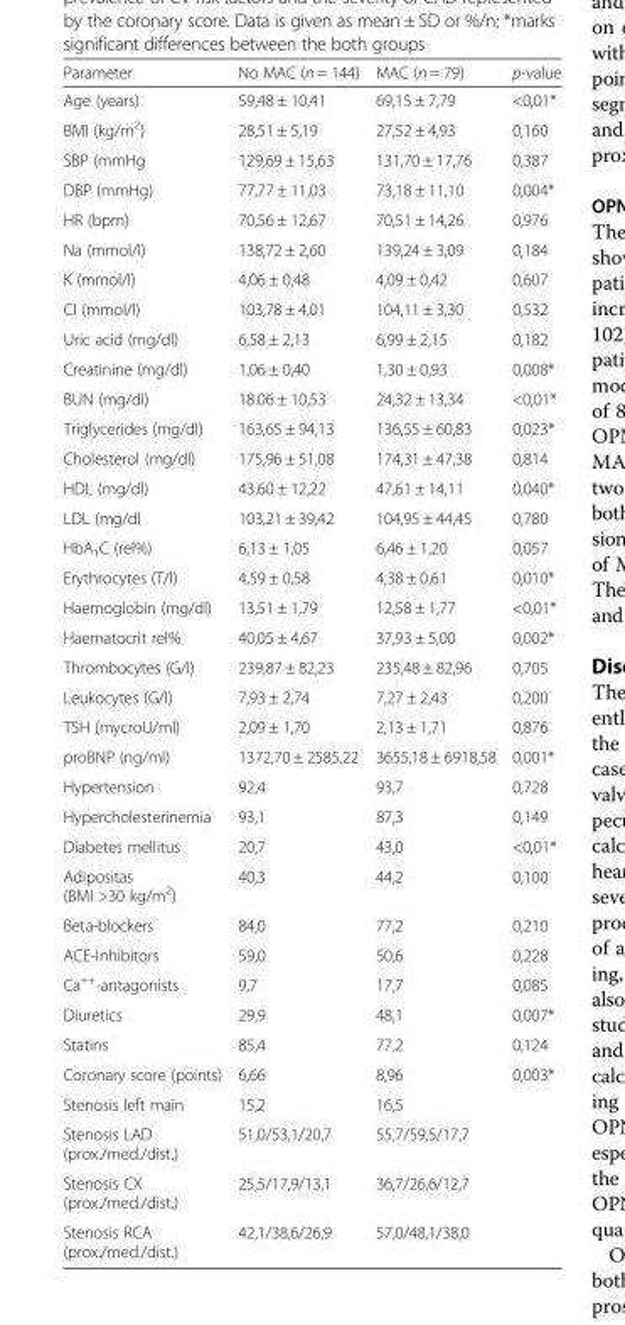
<table><thead><tr><td>Parameter</td><td>No MAC (n = 144)</td><td>MAC (n = 79)</td><td>p-value</td></tr></thead><tbody><tr><td>Age (years)</td><td>59,48 ± 10,41</td><td>69,15 ± 7,79</td><td>&lt;0,01*</td></tr><tr><td>BMI (kg/m<sup>2</sup>)</td><td>28,51 ± 5,19</td><td>27,52 ± 4,93</td><td>0,160</td></tr><tr><td>SBP (mmHg</td><td>129,69 ± 15,63</td><td>131,70 ± 17,76</td><td>0,387</td></tr><tr><td>DBP (mmHg)</td><td>77,77 ± 11,03</td><td>73,18 ± 11,10</td><td>0,004*</td></tr><tr><td>HR (bpm)</td><td>70,56 ± 12,67</td><td>70,51 ± 14,26</td><td>0,976</td></tr><tr><td>Na (mmol/l)</td><td>138,72 ± 2,60</td><td>139,24 ± 3,09</td><td>0,184</td></tr><tr><td>K (mmol/l)</td><td>4,06 ± 0,48</td><td>4,09 ± 0,42</td><td>0,607</td></tr><tr><td>Cl (mmol/l)</td><td>103,78 ± 4,01</td><td>104,11 ± 3,30</td><td>0,532</td></tr><tr><td>Uric acid (mg/dl)</td><td>6,58 ± 2,13</td><td>6,99 ± 2,15</td><td>0,182</td></tr><tr><td>Creatinine (mg/dl)</td><td>1,06 ± 0,40</td><td>1,30 ± 0,93</td><td>0,008*</td></tr><tr><td>BUN (mg/dl)</td><td>18.06 ± 10,53</td><td>24,32 ± 13,34</td><td>&lt;0,01*</td></tr><tr><td>Triglycerides (mg/dl)</td><td>163,65 ± 94,13</td><td>136,55 ± 60,83</td><td>0,023*</td></tr><tr><td>Cholesterol (mg/dl)</td><td>175,96 ± 51,08</td><td>174,31 ± 47,38</td><td>0,814</td></tr><tr><td>HDL (mg/dl)</td><td>43,60 ± 12,22</td><td>47,61 ± 14,11</td><td>0,040*</td></tr><tr><td>LDL (mg/dl</td><td>103,21 ± 39,42</td><td>104,95 ± 44,45</td><td>0,780</td></tr><tr><td>HbA<sub>1</sub>C (rel%)</td><td>6,13 ± 1,05</td><td>6,46 ± 1,20</td><td>0,057</td></tr><tr><td>Erythrocytes (T/l)</td><td>4,59 ± 0,58</td><td>4,38 ± 0,61</td><td>0,010*</td></tr><tr><td>Haemoglobin (mg/dl)</td><td>13,51 ± 1,79</td><td>12,58 ± 1,77</td><td>&lt;0,01*</td></tr><tr><td>Haematocrit rel%</td><td>40,05 ± 4,67</td><td>37,93 ± 5,00</td><td>0,002*</td></tr><tr><td>Thrombocytes (G/l)</td><td>239,87 ± 82,23</td><td>235,48 ± 82,96</td><td>0,705</td></tr><tr><td>Leukocytes (G/l)</td><td>7,93 ± 2,74</td><td>7,27 ± 2,43</td><td>0,200</td></tr><tr><td>TSH (mycroU/ml)</td><td>2,09 ± 1,70</td><td>2,13 ± 1,71</td><td>0,876</td></tr><tr><td>proBNP (ng/ml)</td><td>1372,70 ± 2585,22</td><td>3655,18 ± 6918,58</td><td>0,001*</td></tr><tr><td>Hypertension</td><td>92,4</td><td>93,7</td><td>0,728</td></tr><tr><td>Hypercholesterinemia</td><td>93,1</td><td>87,3</td><td>0,149</td></tr><tr><td>Diabetes mellitus</td><td>20,7</td><td>43,0</td><td>&lt;0,01*</td></tr><tr><td>Adipositas (BMI &gt;30 kg/m<sup>2</sup>)</td><td>40,3</td><td>44,2</td><td>0,100</td></tr><tr><td>Beta-blockers</td><td>84,0</td><td>77,2</td><td>0,210</td></tr><tr><td>ACE-Inhibitors</td><td>59,0</td><td>50,6</td><td>0,228</td></tr><tr><td>Ca<sup>++</sup>-antagonists</td><td>9,7</td><td>17,7</td><td>0,085</td></tr><tr><td>Diuretics</td><td>29,9</td><td>48,1</td><td>0,007*</td></tr><tr><td>Statins</td><td>85,4</td><td>77,2</td><td>0,124</td></tr><tr><td>Coronary score (points)</td><td>6,66</td><td>8,96</td><td>0,003*</td></tr><tr><td>Stenosis left main</td><td>15,2</td><td>16,5</td><td></td></tr><tr><td>Stenosis LAD (prox./med./dist.)</td><td>51,0/53,1/20,7</td><td>55,7/59,5/17,7</td><td></td></tr><tr><td>Stenosis CX (prox./med./dist.)</td><td>25,5/17,9/13,1</td><td>36,7/26,6/12,7</td><td></td></tr><tr><td>Stenosis RCA (prox./med./dist.)</td><td>42,1/38,6/26,9</td><td>57,0/48,1/38,0</td><td></td></tr></tbody></table>